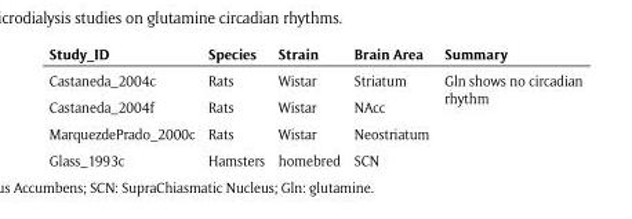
<table><thead><tr><td>Study_ID</td><td>Species</td><td>Strain</td><td>Brain Area</td><td>Summary</td></tr></thead><tbody><tr><td>Castaneda_2004c</td><td>Rats</td><td>Wistar</td><td>Striatum</td><td rowspan="4">Gln shows no circadian rhythm</td></tr><tr><td>Castaneda_2004f</td><td>Rats</td><td>Wistar</td><td>NAcc</td></tr><tr><td>MarquezdePrado_2000c</td><td>Rats</td><td>Wistar</td><td>Neostriatum</td></tr><tr><td>Glass_1993c</td><td>Hamsters</td><td>homebred</td><td>SCN</td></tr></tbody></table>